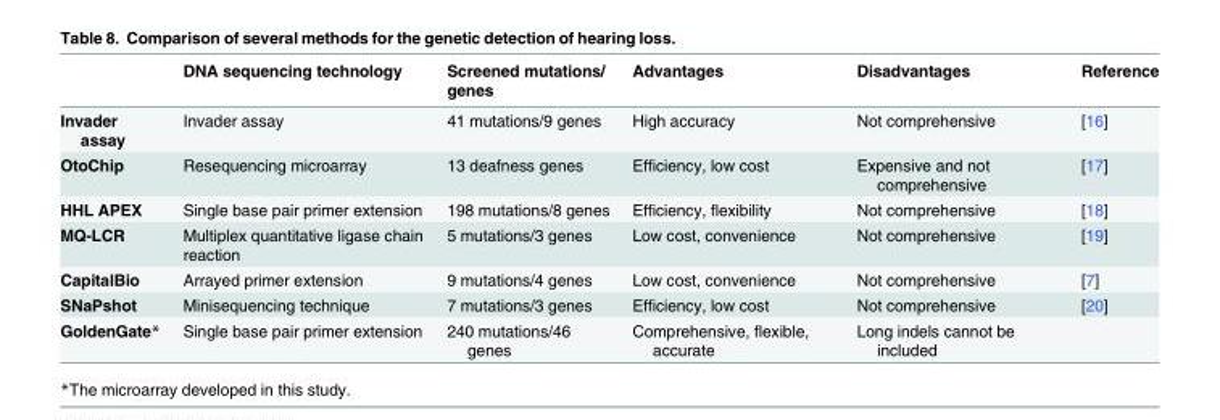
<table><thead><tr><td></td><td>DNA sequencing technology</td><td>Screened mutations/ genes</td><td>Advantages</td><td>Disadvantages</td><td>Reference</td></tr></thead><tbody><tr><td>Invader assay</td><td>Invader assay</td><td>41 mutations/9 genes</td><td>High accuracy</td><td>Not comprehensive</td><td>[16]</td></tr><tr><td>OtoChip</td><td>Resequencing microarray</td><td>13 deafness genes</td><td>Efficiency, low cost</td><td>Expensive and not comprehensive</td><td>[17]</td></tr><tr><td>HHL APEX</td><td>Single base pair primer extension</td><td>198 mutations/8 genes</td><td>Efficiency, flexibility</td><td>Not comprehensive</td><td>[18]</td></tr><tr><td>MQ-LCR</td><td>Multiplex quantitative ligase chain reaction</td><td>5 mutations/3 genes</td><td>Low cost, convenience</td><td>Not comprehensive</td><td>[19]</td></tr><tr><td>CapitalBio</td><td>Arrayed primer extension</td><td>9 mutations/4 genes</td><td>Low cost, convenience</td><td>Not comprehensive</td><td>[7]</td></tr><tr><td>SNaPshot</td><td>Minisequencing technique</td><td>7 mutations/3 genes</td><td>Efficiency, low cost</td><td>Not comprehensive</td><td>[20]</td></tr><tr><td>GoldenGate*</td><td>Single base pair primer extension</td><td>240 mutations/46 genes</td><td>Comprehensive, flexible, accurate</td><td>Long indels cannot be included</td><td></td></tr></tbody></table>